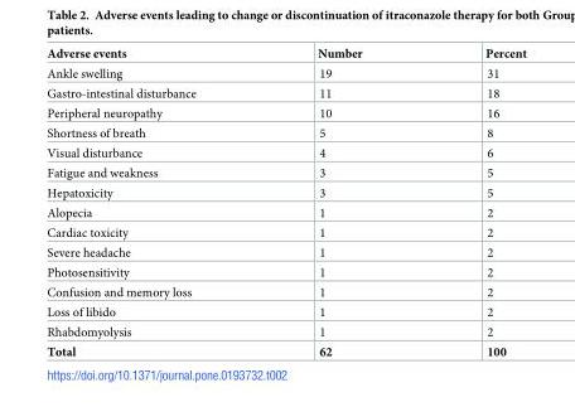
<table><thead><tr><td>Adverse events</td><td>Number</td><td>Percent</td></tr></thead><tbody><tr><td>Ankle swelling</td><td>19</td><td>31</td></tr><tr><td>Gastro-intestinal disturbance</td><td>11</td><td>18</td></tr><tr><td>Peripheral neuropathy</td><td>10</td><td>16</td></tr><tr><td>Shortness of breath</td><td>5</td><td>8</td></tr><tr><td>Visual disturbance</td><td>4</td><td>6</td></tr><tr><td>Fatigue and weakness</td><td>3</td><td>5</td></tr><tr><td>Hepatoxicity</td><td>3</td><td>5</td></tr><tr><td>Alopecia</td><td>1</td><td>2</td></tr><tr><td>Cardiac toxicity</td><td>1</td><td>2</td></tr><tr><td>Severe headache</td><td>1</td><td>2</td></tr><tr><td>Photosensitivity</td><td>1</td><td>2</td></tr><tr><td>Confusion and memory loss</td><td>1</td><td>2</td></tr><tr><td>Loss of libido</td><td>1</td><td>2</td></tr><tr><td>Rhabdomyolysis</td><td>1</td><td>2</td></tr><tr><td>Total</td><td>62</td><td>100</td></tr></tbody></table>